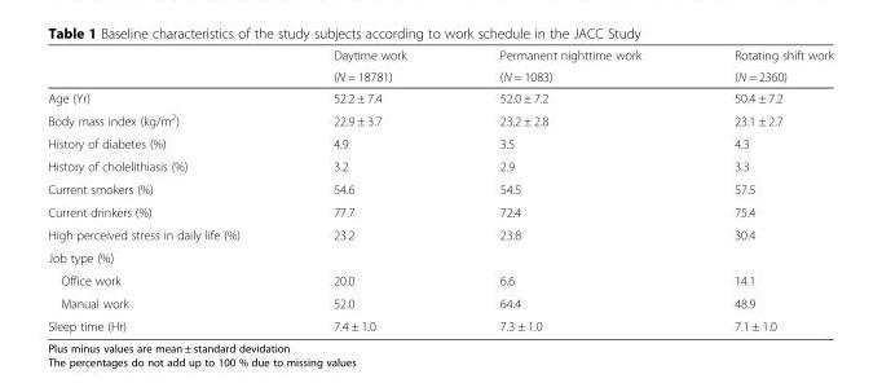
<table><thead><tr><td rowspan="2"></td><td rowspan="2">Daytime work (N = 18781)</td><td rowspan="2">Permanent nighttime work (N = 1083)</td><td rowspan="2">Rotating shift work (N = 2360)</td></tr><tr></tr></thead><tbody><tr><td>Age (Yr)</td><td>52.2 ± 7.4</td><td>52.0 ± 7.2</td><td>50.4 ± 7.2</td></tr><tr><td>Body mass index (kg/m<sup>2</sup>)</td><td>22.9 ± 3.7</td><td>23.2 ± 2.8</td><td>23.1 ± 2.7</td></tr><tr><td>History of diabetes (%)</td><td>4.9</td><td>3.5</td><td>4.3</td></tr><tr><td>History of cholelithiasis (%)</td><td>3.2</td><td>2.9</td><td>3.3</td></tr><tr><td>Current smokers (%)</td><td>54.6</td><td>54.5</td><td>57.5</td></tr><tr><td>Current drinkers (%)</td><td>77.7</td><td>72.4</td><td>75.4</td></tr><tr><td>High perceived stress in daily life (%)</td><td>23.2</td><td>23.8</td><td>30.4</td></tr><tr><td colspan="4">Job type (%)</td></tr><tr><td>Office work</td><td>20.0</td><td>6.6</td><td>14.1</td></tr><tr><td>Manual work</td><td>52.0</td><td>64.4</td><td>48.9</td></tr><tr><td>Sleep time (Hr)</td><td>7.4 ± 1.0</td><td>7.3 ± 1.0</td><td>7.1 ± 1.0</td></tr></tbody></table>